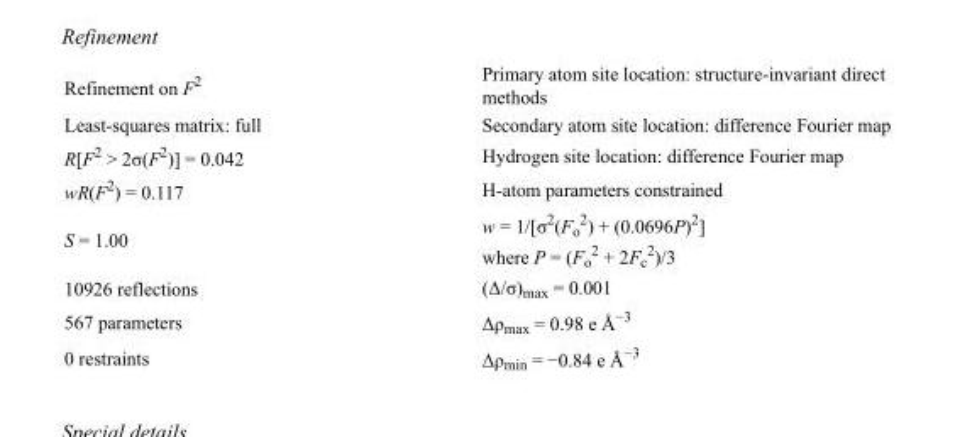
<table><tbody><tr><td>Refinement on F<sup>2</sup></td><td>Primary atom site location: structure-invariant direct methods</td></tr><tr><td>Least-squares matrix: full</td><td>Secondary atom site location: difference Fourier map</td></tr><tr><td>R[F<sup>2</sup> &gt; 2σ(F<sup>2</sup>)] = 0.042</td><td>Hydrogen site location: difference Fourier map</td></tr><tr><td>wR(F<sup>2</sup>) = 0.117</td><td>H-atom parameters constrained</td></tr><tr><td>S = 1.00</td><td>w = 1/[σ<sup>2</sup>(F<sub>o</sub> <sup>2</sup>) + (0.0696P)<sup>2</sup>] where P = (F<sub>o</sub> <sup>2</sup> + 2F<sub>c</sub> <sup>2</sup>)/3</td></tr><tr><td>10926 reflections</td><td>(Δ/σ)<sub>max</sub> = 0.001</td></tr><tr><td>567 parameters</td><td>Δρ<sub>max</sub> = 0.98 e Å<sup>−3</sup></td></tr><tr><td>0 restraints</td><td>Δρ<sub>min</sub> = −0.84 e Å<sup>−3</sup></td></tr></tbody></table>